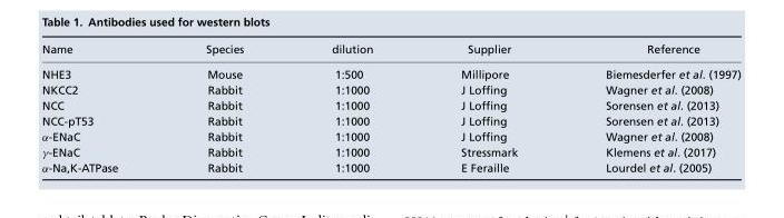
<table><thead><tr><td>Name</td><td>Species</td><td>dilution</td><td>Supplier</td><td>Reference</td></tr></thead><tbody><tr><td>NHE3</td><td>Mouse</td><td>1:500</td><td>Millipore</td><td>Biemesderfer et al. (1997)</td></tr><tr><td>NKCC2</td><td>Rabbit</td><td>1:1000</td><td>J Loffing</td><td>Wagner et al. (2008)</td></tr><tr><td>NCC</td><td>Rabbit</td><td>1:1000</td><td>J Loffing</td><td>Sorensen et al. (2013)</td></tr><tr><td>NCC-pT53</td><td>Rabbit</td><td>1:1000</td><td>J Loffing</td><td>Sorensen et al. (2013)</td></tr><tr><td>α-ENaC</td><td>Rabbit</td><td>1:1000</td><td>J Loffing</td><td>Wagner et al. (2008)</td></tr><tr><td>γ-ENaC</td><td>Rabbit</td><td>1:1000</td><td>Stressmark</td><td>Klemens et al. (2017)</td></tr><tr><td>α-Na,K-ATPase</td><td>Rabbit</td><td>1:1000</td><td>E Feraille</td><td>Lourdel et al. (2005)</td></tr></tbody></table>